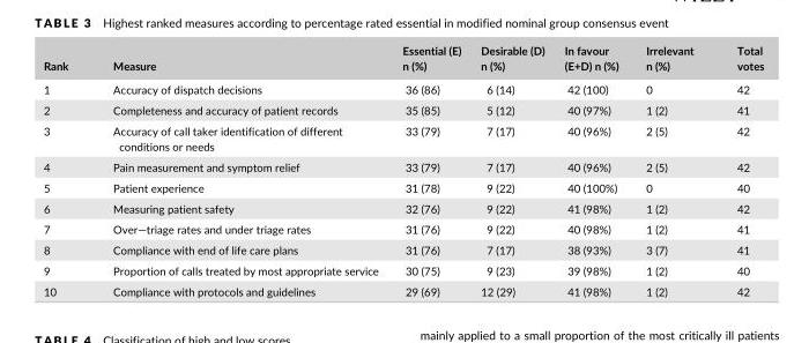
<table><thead><tr><td>Rank</td><td>Measure</td><td>Essential (E) n (%)</td><td>Desirable (D) n (%)</td><td>In favour (E+D) n (%)</td><td>Irrelevant n (%)</td><td>Total votes</td></tr></thead><tbody><tr><td>1</td><td>Accuracy of dispatch decisions</td><td>36 (86)</td><td>6 (14)</td><td>42 (100)</td><td>0</td><td>42</td></tr><tr><td>2</td><td>Completeness and accuracy of patient records</td><td>35 (85)</td><td>5 (12)</td><td>40 (97%)</td><td>1 (2)</td><td>41</td></tr><tr><td>3</td><td>Accuracy of call taker identification of different conditions or needs</td><td>33 (79)</td><td>7 (17)</td><td>40 (96%)</td><td>2 (5)</td><td>42</td></tr><tr><td>4</td><td>Pain measurement and symptom relief</td><td>33 (79)</td><td>7 (17)</td><td>40 (96%)</td><td>2 (5)</td><td>42</td></tr><tr><td>5</td><td>Patient experience</td><td>31 (78)</td><td>9 (22)</td><td>40 (100%)</td><td>0</td><td>40</td></tr><tr><td>6</td><td>Measuring patient safety</td><td>32 (76)</td><td>9 (22)</td><td>41 (98%)</td><td>1 (2)</td><td>42</td></tr><tr><td>7</td><td>Over—triage rates and under triage rates</td><td>31 (76)</td><td>9 (22)</td><td>40 (98%)</td><td>1 (2)</td><td>41</td></tr><tr><td>8</td><td>Compliance with end of life care plans</td><td>31 (76)</td><td>7 (17)</td><td>38 (93%)</td><td>3 (7)</td><td>41</td></tr><tr><td>9</td><td>Proportion of calls treated by most appropriate service</td><td>30 (75)</td><td>9 (23)</td><td>39 (98%)</td><td>1 (2)</td><td>40</td></tr><tr><td>10</td><td>Compliance with protocols and guidelines</td><td>29 (69)</td><td>12 (29)</td><td>41 (98%)</td><td>1 (2)</td><td>42</td></tr></tbody></table>